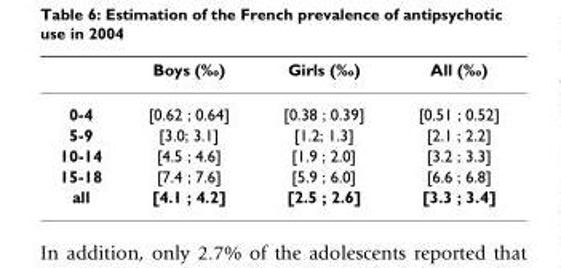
<table><thead><tr><td></td><td>Boys (‰)</td><td>Girls (‰)</td><td>All (‰)</td></tr></thead><tbody><tr><td>0-4</td><td>[0.62 ; 0.64]</td><td>[0.38 ; 0.39]</td><td>[0.51 ; 0.52]</td></tr><tr><td>5-9</td><td>[3.0; 3.1]</td><td>[1.2; 1.3]</td><td>[2.1 ; 2.2]</td></tr><tr><td>10-14</td><td>[4.5 ; 4.6]</td><td>[1.9 ; 2.0]</td><td>[3.2 ; 3.3]</td></tr><tr><td>15-18</td><td>[7.4 ; 7.6]</td><td>[5.9 ; 6.0]</td><td>[6.6 ; 6.8]</td></tr><tr><td>all</td><td>[4.1 ; 4.2]</td><td>[2.5 ; 2.6]</td><td>[3.3 ; 3.4]</td></tr></tbody></table>